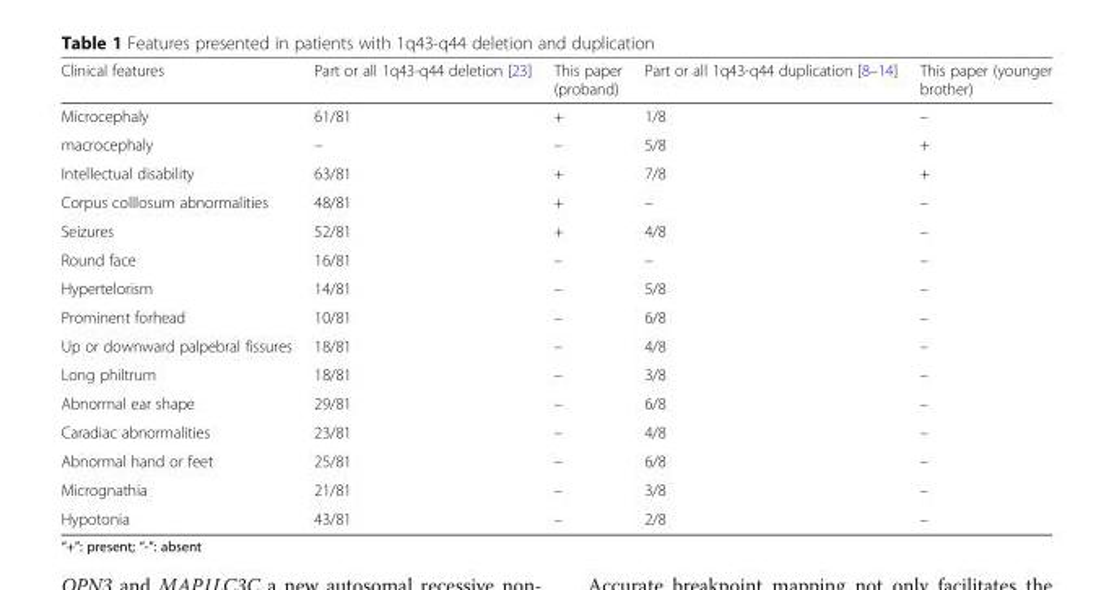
<table><thead><tr><td>Clinical features</td><td>Part or all 1q43-q44 deletion [23]</td><td>This paper (proband)</td><td>Part or all 1q43-q44 duplication [8–14]</td><td>This paper (younger brother)</td></tr></thead><tbody><tr><td>Microcephaly</td><td>61/81</td><td>+</td><td>1/8</td><td>–</td></tr><tr><td>macrocephaly</td><td>–</td><td>–</td><td>5/8</td><td>+</td></tr><tr><td>Intellectual disability</td><td>63/81</td><td>+</td><td>7/8</td><td>+</td></tr><tr><td>Corpus colllosum abnormalities</td><td>48/81</td><td>+</td><td>–</td><td>–</td></tr><tr><td>Seizures</td><td>52/81</td><td>+</td><td>4/8</td><td>–</td></tr><tr><td>Round face</td><td>16/81</td><td>–</td><td>–</td><td>–</td></tr><tr><td>Hypertelorism</td><td>14/81</td><td>–</td><td>5/8</td><td>–</td></tr><tr><td>Prominent forhead</td><td>10/81</td><td>–</td><td>6/8</td><td>–</td></tr><tr><td>Up or downward palpebral fissures</td><td>18/81</td><td>–</td><td>4/8</td><td>–</td></tr><tr><td>Long philtrum</td><td>18/81</td><td>–</td><td>3/8</td><td>–</td></tr><tr><td>Abnormal ear shape</td><td>29/81</td><td>–</td><td>6/8</td><td>–</td></tr><tr><td>Caradiac abnormalities</td><td>23/81</td><td>–</td><td>4/8</td><td>–</td></tr><tr><td>Abnormal hand or feet</td><td>25/81</td><td>–</td><td>6/8</td><td>–</td></tr><tr><td>Micrognathia</td><td>21/81</td><td>–</td><td>3/8</td><td>–</td></tr><tr><td>Hypotonia</td><td>43/81</td><td>–</td><td>2/8</td><td>–</td></tr></tbody></table>